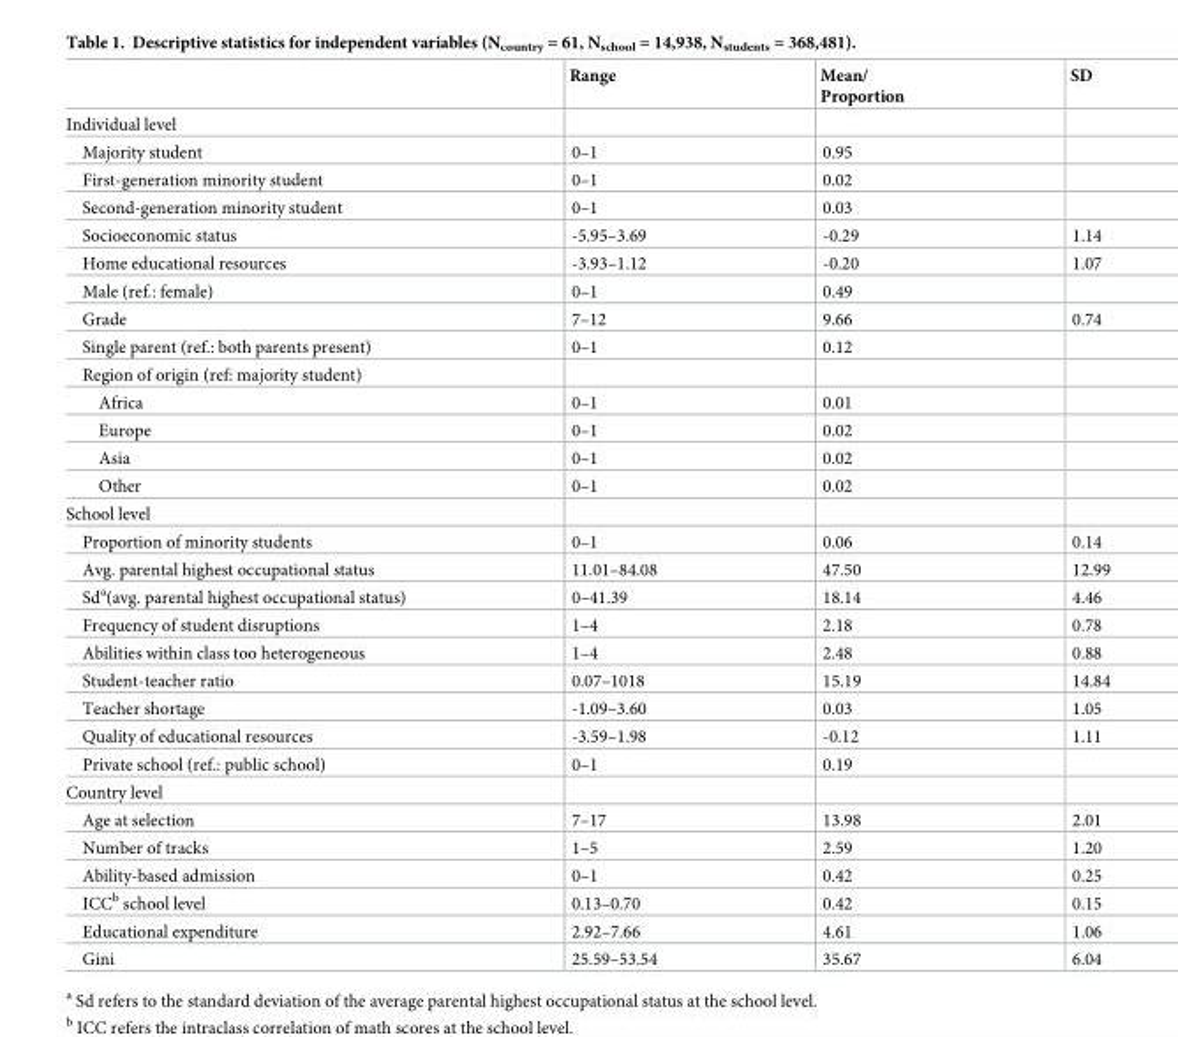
<table><thead><tr><td></td><td>Range</td><td>Mean/ Proportion</td><td>SD</td></tr></thead><tbody><tr><td colspan="4">Individual level</td></tr><tr><td>Majority student</td><td>0–1</td><td>0.95</td><td></td></tr><tr><td>First-generation minority student</td><td>0–1</td><td>0.02</td><td></td></tr><tr><td>Second-generation minority student</td><td>0–1</td><td>0.03</td><td></td></tr><tr><td>Socioeconomic status</td><td>-5.95–3.69</td><td>-0.29</td><td>1.14</td></tr><tr><td>Home educational resources</td><td>-3.93–1.12</td><td>-0.20</td><td>1.07</td></tr><tr><td>Male (ref.: female)</td><td>0–1</td><td>0.49</td><td></td></tr><tr><td>Grade</td><td>7–12</td><td>9.66</td><td>0.74</td></tr><tr><td>Single parent (ref.: both parents present)</td><td>0–1</td><td>0.12</td><td></td></tr><tr><td colspan="4">Region of origin (ref: majority student)</td></tr><tr><td>Africa</td><td>0–1</td><td>0.01</td><td></td></tr><tr><td>Europe</td><td>0–1</td><td>0.02</td><td></td></tr><tr><td>Asia</td><td>0–1</td><td>0.02</td><td></td></tr><tr><td>Other</td><td>0–1</td><td>0.02</td><td></td></tr><tr><td colspan="4">School level</td></tr><tr><td>Proportion of minority students</td><td>0–1</td><td>0.06</td><td>0.14</td></tr><tr><td>Avg. parental highest occupational status</td><td>11.01–84.08</td><td>47.50</td><td>12.99</td></tr><tr><td>Sd<sup>a</sup>(avg. parental highest occupational status)</td><td>0–41.39</td><td>18.14</td><td>4.46</td></tr><tr><td>Frequency of student disruptions</td><td>1–4</td><td>2.18</td><td>0.78</td></tr><tr><td>Abilities within class too heterogeneous</td><td>1–4</td><td>2.48</td><td>0.88</td></tr><tr><td>Student-teacher ratio</td><td>0.07–1018</td><td>15.19</td><td>14.84</td></tr><tr><td>Teacher shortage</td><td>-1.09–3.60</td><td>0.03</td><td>1.05</td></tr><tr><td>Quality of educational resources</td><td>-3.59–1.98</td><td>-0.12</td><td>1.11</td></tr><tr><td>Private school (ref.: public school)</td><td>0–1</td><td>0.19</td><td></td></tr><tr><td colspan="4">Country level</td></tr><tr><td>Age at selection</td><td>7–17</td><td>13.98</td><td>2.01</td></tr><tr><td>Number of tracks</td><td>1–5</td><td>2.59</td><td>1.20</td></tr><tr><td>Ability-based admission</td><td>0–1</td><td>0.42</td><td>0.25</td></tr><tr><td>ICC<sup>b</sup> school level</td><td>0.13–0.70</td><td>0.42</td><td>0.15</td></tr><tr><td>Educational expenditure</td><td>2.92–7.66</td><td>4.61</td><td>1.06</td></tr><tr><td>Gini</td><td>25.59–53.54</td><td>35.67</td><td>6.04</td></tr></tbody></table>